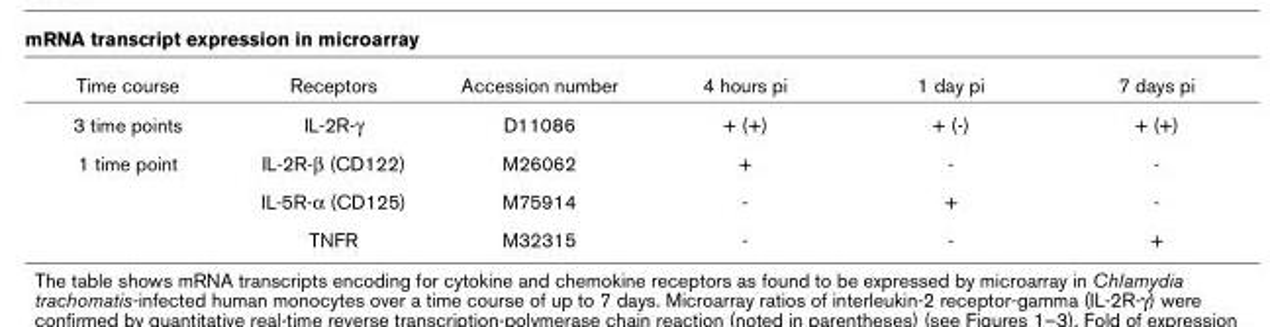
<table><thead><tr><td>Time course</td><td>Receptors</td><td>Accession number</td><td>4 hours pi</td><td>1 day pi</td><td>7 days pi</td></tr></thead><tbody><tr><td>3 time points</td><td>IL-2R-γ</td><td>D11086</td><td>+ (+)</td><td>+ (-)</td><td>+ (+)</td></tr><tr><td rowspan="3">1 time point</td><td>IL-2R-β (CD122)</td><td>M26062</td><td>+</td><td>-</td><td>-</td></tr><tr><td>IL-5R-α (CD125)</td><td>M75914</td><td>-</td><td>+</td><td>-</td></tr><tr><td>TNFR</td><td>M32315</td><td>-</td><td>-</td><td>+</td></tr></tbody></table>